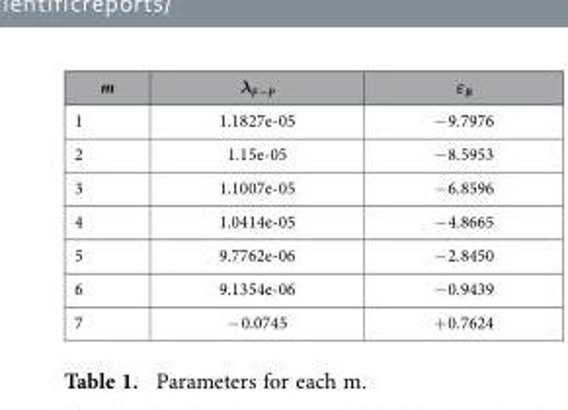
<table><thead><tr><td>m</td><td>λ<sub>F−P</sub></td><td>ε<sub>B</sub></td></tr></thead><tbody><tr><td>1</td><td>1.1827e-05</td><td>− 9.7976</td></tr><tr><td>2</td><td>1.15e-05</td><td>− 8.5953</td></tr><tr><td>3</td><td>1.1007e-05</td><td>− 6.8596</td></tr><tr><td>4</td><td>1.0414e-05</td><td>− 4.8665</td></tr><tr><td>5</td><td>9.7762e-06</td><td>− 2.8450</td></tr><tr><td>6</td><td>9.1354e-06</td><td>− 0.9439</td></tr><tr><td>7</td><td>− 0.0745</td><td>+ 0.7624</td></tr></tbody></table>